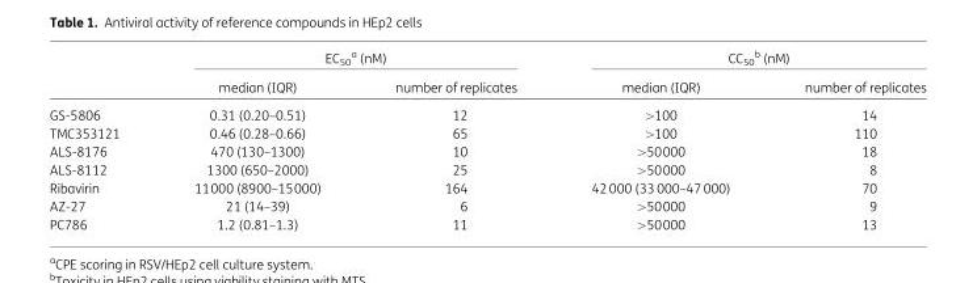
<table><thead><tr><td rowspan="2"></td><td colspan="2">EC<sub>50</sub> <sup>a</sup> (nM)</td><td colspan="2">CC<sub>50</sub> <sup>b</sup> (nM)</td></tr><tr><td>median (IQR)</td><td>number of replicates</td><td>median (IQR)</td><td>number of replicates</td></tr></thead><tbody><tr><td>GS-5806</td><td>0.31 (0.20–0.51)</td><td>12</td><td>&gt;100</td><td>14</td></tr><tr><td>TMC353121</td><td>0.46 (0.28–0.66)</td><td>65</td><td>&gt;100</td><td>110</td></tr><tr><td>ALS-8176</td><td>470 (130–1300)</td><td>10</td><td>&gt;50000</td><td>18</td></tr><tr><td>ALS-8112</td><td>1300 (650–2000)</td><td>25</td><td>&gt;50000</td><td>8</td></tr><tr><td>Ribavirin</td><td>11000 (8900–15000)</td><td>164</td><td>42 000 (33 000–47 000)</td><td>70</td></tr><tr><td>AZ-27</td><td>21 (14–39)</td><td>6</td><td>&gt;50000</td><td>9</td></tr><tr><td>PC786</td><td>1.2 (0.81–1.3)</td><td>11</td><td>&gt;50000</td><td>13</td></tr></tbody></table>